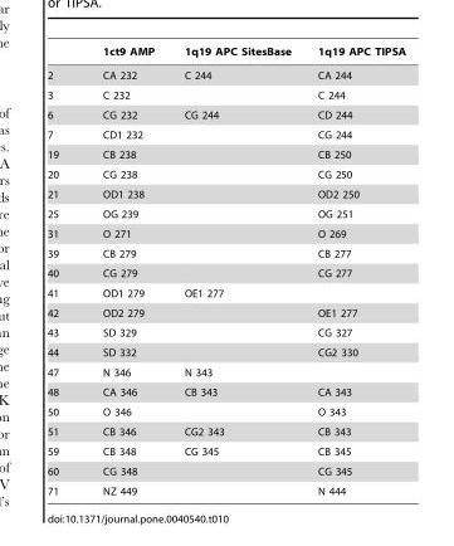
<table><thead><tr><td></td><td>1ct9 AMP</td><td>1q19 APC SitesBase</td><td>1q19 APC TIPSA</td></tr></thead><tbody><tr><td>2</td><td>CA 232</td><td>C 244</td><td>CA 244</td></tr><tr><td>3</td><td>C 232</td><td></td><td>C 244</td></tr><tr><td>6</td><td>CG 232</td><td>CG 244</td><td>CD 244</td></tr><tr><td>7</td><td>CD1 232</td><td></td><td>CG 244</td></tr><tr><td>19</td><td>CB 238</td><td></td><td>CB 250</td></tr><tr><td>20</td><td>CG 238</td><td></td><td>CG 250</td></tr><tr><td>21</td><td>OD1 238</td><td></td><td>OD2 250</td></tr><tr><td>25</td><td>OG 239</td><td></td><td>OG 251</td></tr><tr><td>31</td><td>O 271</td><td></td><td>O 269</td></tr><tr><td>39</td><td>CB 279</td><td></td><td>CB 277</td></tr><tr><td>40</td><td>CG 279</td><td></td><td>CG 277</td></tr><tr><td>41</td><td>OD1 279</td><td>OE1 277</td><td></td></tr><tr><td>42</td><td>OD2 279</td><td></td><td>OE1 277</td></tr><tr><td>43</td><td>SD 329</td><td></td><td>CG 327</td></tr><tr><td>44</td><td>SD 332</td><td></td><td>CG2 330</td></tr><tr><td>47</td><td>N 346</td><td>N 343</td><td></td></tr><tr><td>48</td><td>CA 346</td><td>CB 343</td><td>CA 343</td></tr><tr><td>50</td><td>O 346</td><td></td><td>O 343</td></tr><tr><td>51</td><td>CB 346</td><td>CG2 343</td><td>CB 343</td></tr><tr><td>59</td><td>CB 348</td><td>CG 345</td><td>CB 345</td></tr><tr><td>60</td><td>CG 348</td><td></td><td>CG 345</td></tr><tr><td>71</td><td>NZ 449</td><td></td><td>N 444</td></tr></tbody></table>